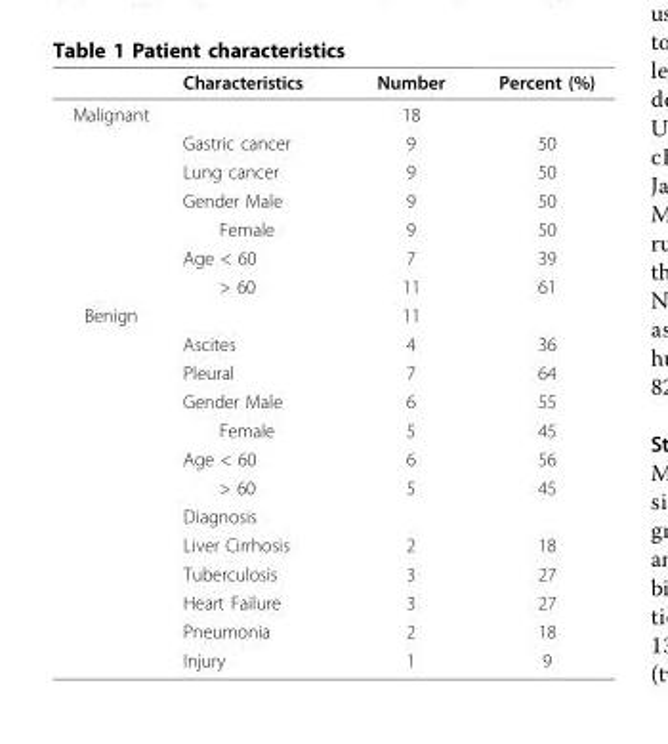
<table><thead><tr><td></td><td>Characteristics</td><td>Number</td><td>Percent (%)</td></tr></thead><tbody><tr><td rowspan="7">Malignant</td><td></td><td>18</td><td></td></tr><tr><td>Gastric cancer</td><td>9</td><td>50</td></tr><tr><td>Lung cancer</td><td>9</td><td>50</td></tr><tr><td>Gender Male</td><td>9</td><td>50</td></tr><tr><td>Female</td><td>9</td><td>50</td></tr><tr><td>Age &lt; 60</td><td>7</td><td>39</td></tr><tr><td>&gt; 60</td><td>11</td><td>61</td></tr><tr><td rowspan="13">Benign</td><td></td><td>11</td><td></td></tr><tr><td>Ascites</td><td>4</td><td>36</td></tr><tr><td>Pleural</td><td>7</td><td>64</td></tr><tr><td>Gender Male</td><td>6</td><td>55</td></tr><tr><td>Female</td><td>5</td><td>45</td></tr><tr><td>Age &lt; 60</td><td>6</td><td>56</td></tr><tr><td>&gt; 60</td><td>5</td><td>45</td></tr><tr><td>Diagnosis</td><td></td><td></td></tr><tr><td>Liver Cirrhosis</td><td>2</td><td>18</td></tr><tr><td>Tuberculosis</td><td>3</td><td>27</td></tr><tr><td>Heart Failure</td><td>3</td><td>27</td></tr><tr><td>Pneumonia</td><td>2</td><td>18</td></tr><tr><td>Injury</td><td>1</td><td>9</td></tr></tbody></table>